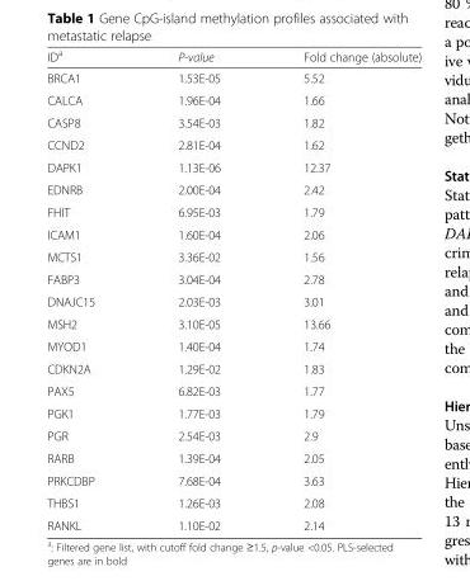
<table><thead><tr><td>ID<sup>a</sup></td><td>P-value</td><td>Fold change (absolute)</td></tr></thead><tbody><tr><td>BRCA1</td><td>1.53E-05</td><td>5.52</td></tr><tr><td>CALCA</td><td>1.96E-04</td><td>1.66</td></tr><tr><td>CASP8</td><td>3.54E-03</td><td>1.82</td></tr><tr><td>CCND2</td><td>2.81E-04</td><td>1.62</td></tr><tr><td>DAPK1</td><td>1.13E-06</td><td>12.37</td></tr><tr><td>EDNRB</td><td>2.00E-04</td><td>2.42</td></tr><tr><td>FHIT</td><td>6.95E-03</td><td>1.79</td></tr><tr><td>ICAM1</td><td>1.60E-04</td><td>2.06</td></tr><tr><td>MCTS1</td><td>3.36E-02</td><td>1.56</td></tr><tr><td>FABP3</td><td>3.04E-04</td><td>2.78</td></tr><tr><td>DNAJC15</td><td>2.03E-03</td><td>3.01</td></tr><tr><td>MSH2</td><td>3.10E-05</td><td>13.66</td></tr><tr><td>MYOD1</td><td>1.40E-04</td><td>1.74</td></tr><tr><td>CDKN2A</td><td>1.29E-02</td><td>1.83</td></tr><tr><td>PAX5</td><td>6.82E-03</td><td>1.77</td></tr><tr><td>PGK1</td><td>1.77E-03</td><td>1.79</td></tr><tr><td>PGR</td><td>2.54E-03</td><td>2.9</td></tr><tr><td>RARB</td><td>1.39E-04</td><td>2.05</td></tr><tr><td>PRKCDBP</td><td>7.68E-04</td><td>3.63</td></tr><tr><td>THBS1</td><td>1.26E-03</td><td>2.08</td></tr><tr><td>RANKL</td><td>1.10E-02</td><td>2.14</td></tr></tbody></table>